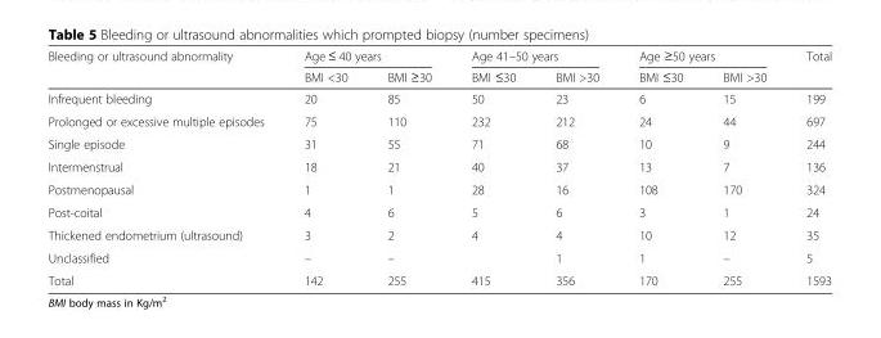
<table><thead><tr><td rowspan="2">Bleeding or ultrasound abnormality</td><td colspan="2">Age ≤ 40 years</td><td colspan="2">Age 41–50 years</td><td colspan="2">Age ≥50 years</td><td rowspan="2">Total</td></tr><tr><td>BMI &lt;30</td><td>BMI ≥30</td><td>BMI ≤30</td><td>BMI &gt;30</td><td>BMI ≤30</td><td>BMI &gt;30</td></tr></thead><tbody><tr><td>Infrequent bleeding</td><td>20</td><td>85</td><td>50</td><td>23</td><td>6</td><td>15</td><td>199</td></tr><tr><td>Prolonged or excessive multiple episodes</td><td>75</td><td>110</td><td>232</td><td>212</td><td>24</td><td>44</td><td>697</td></tr><tr><td>Single episode</td><td>31</td><td>55</td><td>71</td><td>68</td><td>10</td><td>9</td><td>244</td></tr><tr><td>Intermenstrual</td><td>18</td><td>21</td><td>40</td><td>37</td><td>13</td><td>7</td><td>136</td></tr><tr><td>Postmenopausal</td><td>1</td><td>1</td><td>28</td><td>16</td><td>108</td><td>170</td><td>324</td></tr><tr><td>Post-coital</td><td>4</td><td>6</td><td>5</td><td>6</td><td>3</td><td>1</td><td>24</td></tr><tr><td>Thickened endometrium (ultrasound)</td><td>3</td><td>2</td><td>4</td><td>4</td><td>10</td><td>12</td><td>35</td></tr><tr><td>Unclassified</td><td>–</td><td>–</td><td></td><td>1</td><td>1</td><td>–</td><td>5</td></tr><tr><td>Total</td><td>142</td><td>255</td><td>415</td><td>356</td><td>170</td><td>255</td><td>1593</td></tr></tbody></table>